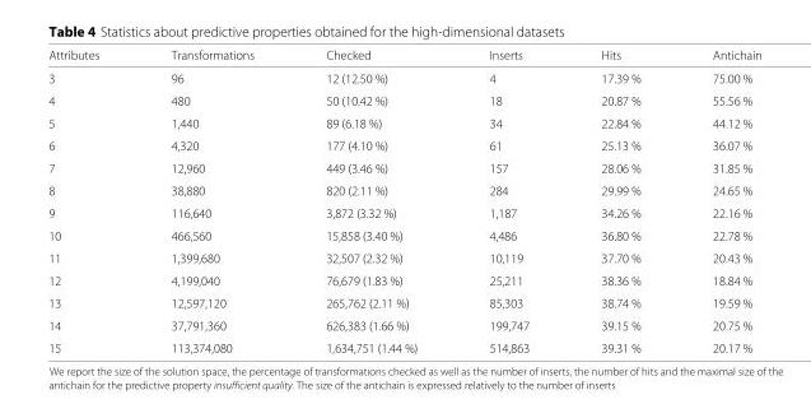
<table><thead><tr><td>Attributes</td><td>Transformations</td><td>Checked</td><td>Inserts</td><td>Hits</td><td>Antichain</td></tr></thead><tbody><tr><td>3</td><td>96</td><td>12 (12.50 %)</td><td>4</td><td>17.39 %</td><td>75.00 %</td></tr><tr><td>4</td><td>480</td><td>50 (10.42 %)</td><td>18</td><td>20.87 %</td><td>55.56 %</td></tr><tr><td>5</td><td>1,440</td><td>89 (6.18 %)</td><td>34</td><td>22.84 %</td><td>44.12 %</td></tr><tr><td>6</td><td>4,320</td><td>177 (4.10 %)</td><td>61</td><td>25.13 %</td><td>36.07 %</td></tr><tr><td>7</td><td>12,960</td><td>449 (3.46 %)</td><td>157</td><td>28.06 %</td><td>31.85 %</td></tr><tr><td>8</td><td>38,880</td><td>820 (2.11 %)</td><td>284</td><td>29.99 %</td><td>24.65 %</td></tr><tr><td>9</td><td>116,640</td><td>3,872 (3.32 %)</td><td>1,187</td><td>34.26 %</td><td>22.16 %</td></tr><tr><td>10</td><td>466,560</td><td>15,858 (3.40 %)</td><td>4,486</td><td>36.80 %</td><td>22.78 %</td></tr><tr><td>11</td><td>1,399,680</td><td>32,507 (2.32 %)</td><td>10,119</td><td>37.70 %</td><td>20.43 %</td></tr><tr><td>12</td><td>4,199,040</td><td>76,679 (1.83 %)</td><td>25,211</td><td>38.36 %</td><td>18.84 %</td></tr><tr><td>13</td><td>12,597,120</td><td>265,762 (2.11 %)</td><td>85,303</td><td>38.74 %</td><td>19.59 %</td></tr><tr><td>14</td><td>37,791,360</td><td>626,383 (1.66 %)</td><td>199,747</td><td>39.15 %</td><td>20.75 %</td></tr><tr><td>15</td><td>113,374,080</td><td>1,634,751 (1.44 %)</td><td>514,863</td><td>39.31 %</td><td>20.17 %</td></tr></tbody></table>